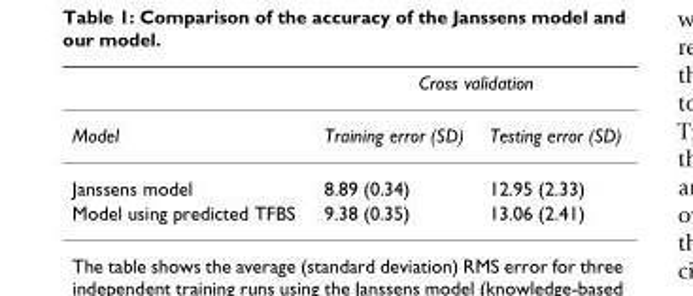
<table><thead><tr><td rowspan="2">Model</td><td colspan="2">Cross validation</td></tr><tr><td>Training error (SD)</td><td>Testing error (SD)</td></tr></thead><tbody><tr><td>Janssens model</td><td>8.89 (0.34)</td><td>12.95 (2.33)</td></tr><tr><td>Model using predicted TFBS</td><td>9.38 (0.35)</td><td>13.06 (2.41)</td></tr></tbody></table>